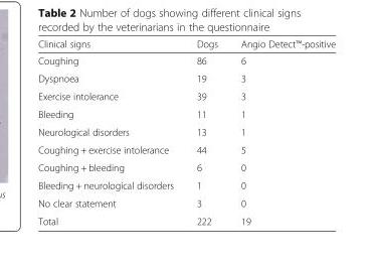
<table><thead><tr><td>Clinical signs</td><td>Dogs</td><td>Angio Detect™-positive</td></tr></thead><tbody><tr><td>Coughing</td><td>86</td><td>6</td></tr><tr><td>Dyspnoea</td><td>19</td><td>3</td></tr><tr><td>Exercise intolerance</td><td>39</td><td>3</td></tr><tr><td>Bleeding</td><td>11</td><td>1</td></tr><tr><td>Neurological disorders</td><td>13</td><td>1</td></tr><tr><td>Coughing + exercise intolerance</td><td>44</td><td>5</td></tr><tr><td>Coughing + bleeding</td><td>6</td><td>0</td></tr><tr><td>Bleeding + neurological disorders</td><td>1</td><td>0</td></tr><tr><td>No clear statement</td><td>3</td><td>0</td></tr><tr><td>Total</td><td>222</td><td>19</td></tr></tbody></table>